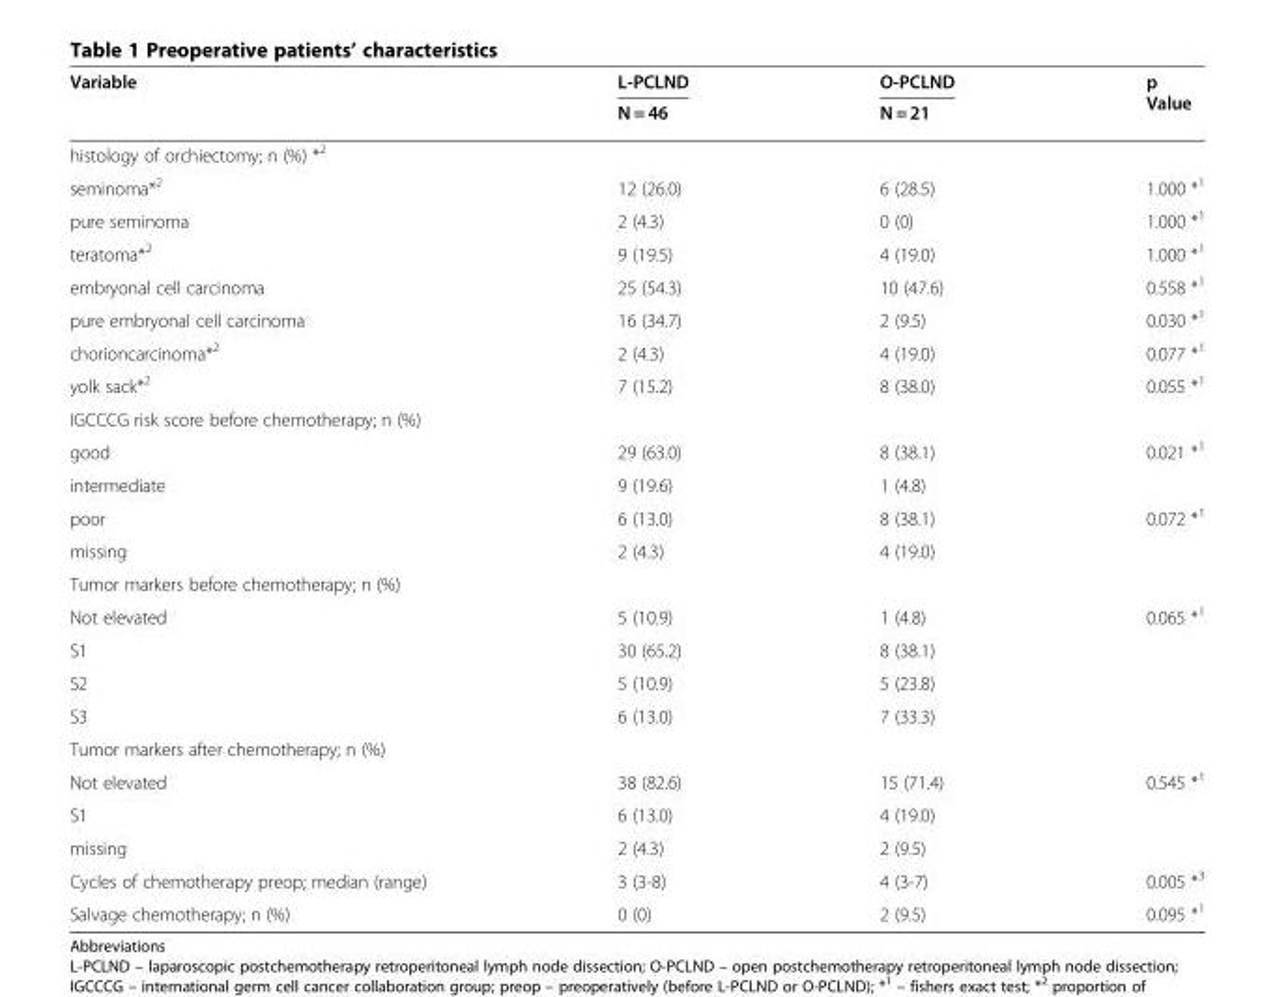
<table><thead><tr><td rowspan="2">Variable</td><td rowspan="2">L-PCLND N = 46</td><td rowspan="2">O-PCLND N = 21</td><td rowspan="2">p Value</td></tr><tr></tr></thead><tbody><tr><td colspan="4">histology of orchiectomy; n (%) *<sup>2</sup></td></tr><tr><td>seminoma*<sup>2</sup></td><td>12 (26.0)</td><td>6 (28.5)</td><td>1.000 *<sup>1</sup></td></tr><tr><td>pure seminoma</td><td>2 (4.3)</td><td>0 (0)</td><td>1.000 *<sup>1</sup></td></tr><tr><td>teratoma*<sup>2</sup></td><td>9 (19.5)</td><td>4 (19.0)</td><td>1.000 *<sup>1</sup></td></tr><tr><td>embryonal cell carcinoma</td><td>25 (54.3)</td><td>10 (47.6)</td><td>0.558 *<sup>1</sup></td></tr><tr><td>pure embryonal cell carcinoma</td><td>16 (34.7)</td><td>2 (9.5)</td><td>0.030 *<sup>1</sup></td></tr><tr><td>chorioncarcinoma*<sup>2</sup></td><td>2 (4.3)</td><td>4 (19.0)</td><td>0.077 *<sup>1</sup></td></tr><tr><td>yolk sack*<sup>2</sup></td><td>7 (15.2)</td><td>8 (38.0)</td><td>0.055 *<sup>1</sup></td></tr><tr><td colspan="4">IGCCCG risk score before chemotherapy; n (%)</td></tr><tr><td>good</td><td>29 (63.0)</td><td>8 (38.1)</td><td>0.021 *<sup>1</sup></td></tr><tr><td>intermediate</td><td>9 (19.6)</td><td colspan="2">1 (4.8)</td></tr><tr><td>poor</td><td>6 (13.0)</td><td>8 (38.1)</td><td>0.072 *<sup>1</sup></td></tr><tr><td>missing</td><td>2 (4.3)</td><td colspan="2">4 (19.0)</td></tr><tr><td colspan="4">Tumor markers before chemotherapy; n (%)</td></tr><tr><td>Not elevated</td><td>5 (10.9)</td><td>1 (4.8)</td><td>0.065 *<sup>1</sup></td></tr><tr><td>S1</td><td>30 (65.2)</td><td colspan="2">8 (38.1)</td></tr><tr><td>S2</td><td>5 (10.9)</td><td colspan="2">5 (23.8)</td></tr><tr><td>S3</td><td>6 (13.0)</td><td colspan="2">7 (33.3)</td></tr><tr><td colspan="4">Tumor markers after chemotherapy; n (%)</td></tr><tr><td>Not elevated</td><td>38 (82.6)</td><td>15 (71.4)</td><td>0.545 *<sup>1</sup></td></tr><tr><td>S1</td><td>6 (13.0)</td><td colspan="2">4 (19.0)</td></tr><tr><td>missing</td><td>2 (4.3)</td><td colspan="2">2 (9.5)</td></tr><tr><td>Cycles of chemotherapy preop; median (range)</td><td>3 (3-8)</td><td>4 (3-7)</td><td>0.005 *<sup>3</sup></td></tr><tr><td>Salvage chemotherapy; n (%)</td><td>0 (0)</td><td>2 (9.5)</td><td>0.095 *<sup>1</sup></td></tr></tbody></table>